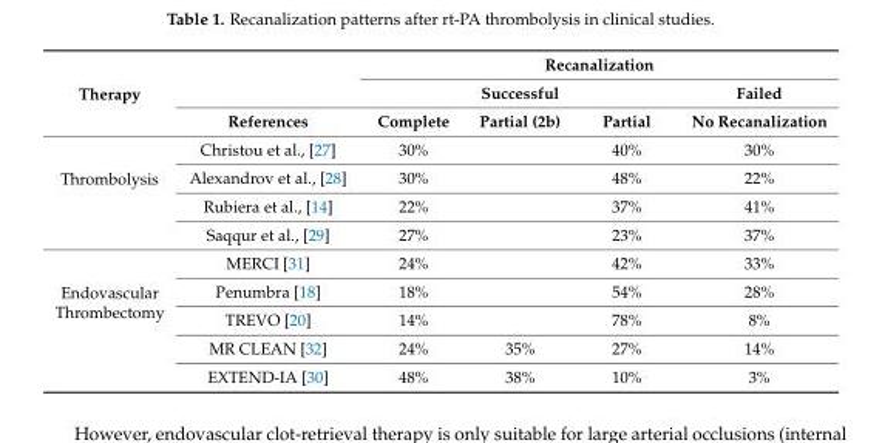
<table><thead><tr><td rowspan="3">Therapy</td><td rowspan="3">References</td><td colspan="4">Recanalization</td></tr><tr><td colspan="3">Successful</td><td rowspan="2">Failed No Recanalization</td></tr><tr><td>Complete</td><td>Partial (2b)</td><td>Partial</td></tr></thead><tbody><tr><td rowspan="4">Thrombolysis</td><td>Christou et al., [27]</td><td>30%</td><td></td><td>40%</td><td>30%</td></tr><tr><td>Alexandrov et al., [28]</td><td>30%</td><td></td><td>48%</td><td>22%</td></tr><tr><td>Rubiera et al., [14]</td><td>22%</td><td></td><td>37%</td><td>41%</td></tr><tr><td>Saqqur et al., [29]</td><td>27%</td><td></td><td>23%</td><td>37%</td></tr><tr><td rowspan="5">Endovascular Thrombectomy</td><td>MERCI [31]</td><td>24%</td><td></td><td>42%</td><td>33%</td></tr><tr><td>Penumbra [18]</td><td>18%</td><td></td><td>54%</td><td>28%</td></tr><tr><td>TREVO [20]</td><td>14%</td><td></td><td>78%</td><td>8%</td></tr><tr><td>MR CLEAN [32]</td><td>24%</td><td>35%</td><td>27%</td><td>14%</td></tr><tr><td>EXTEND-IA [30]</td><td>48%</td><td>38%</td><td>10%</td><td>3%</td></tr></tbody></table>